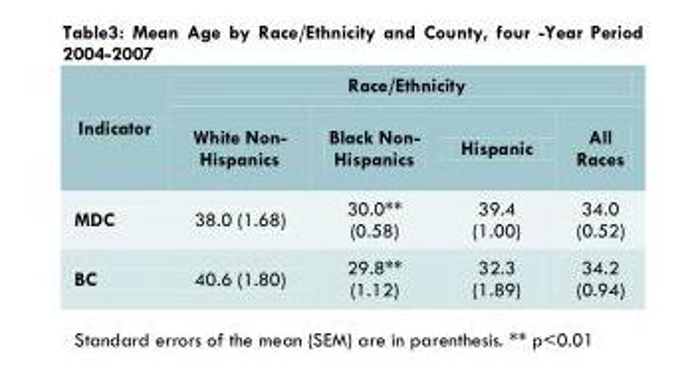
<table><thead><tr><td rowspan="2">Indicator</td><td colspan="4">Race/Ethnicity</td></tr><tr><td>White Non- Hispanics</td><td>Black Non- Hispanics</td><td>Hispanic</td><td>All Races</td></tr></thead><tbody><tr><td>MDC</td><td>38.0 (1.68)</td><td>30.0** (0.58)</td><td>39.4 (1.00)</td><td>34.0 (0.52)</td></tr><tr><td>BC</td><td>40.6 (1.80)</td><td>29.8** (1.12)</td><td>32.3 (1.89)</td><td>34.2 (0.94)</td></tr></tbody></table>